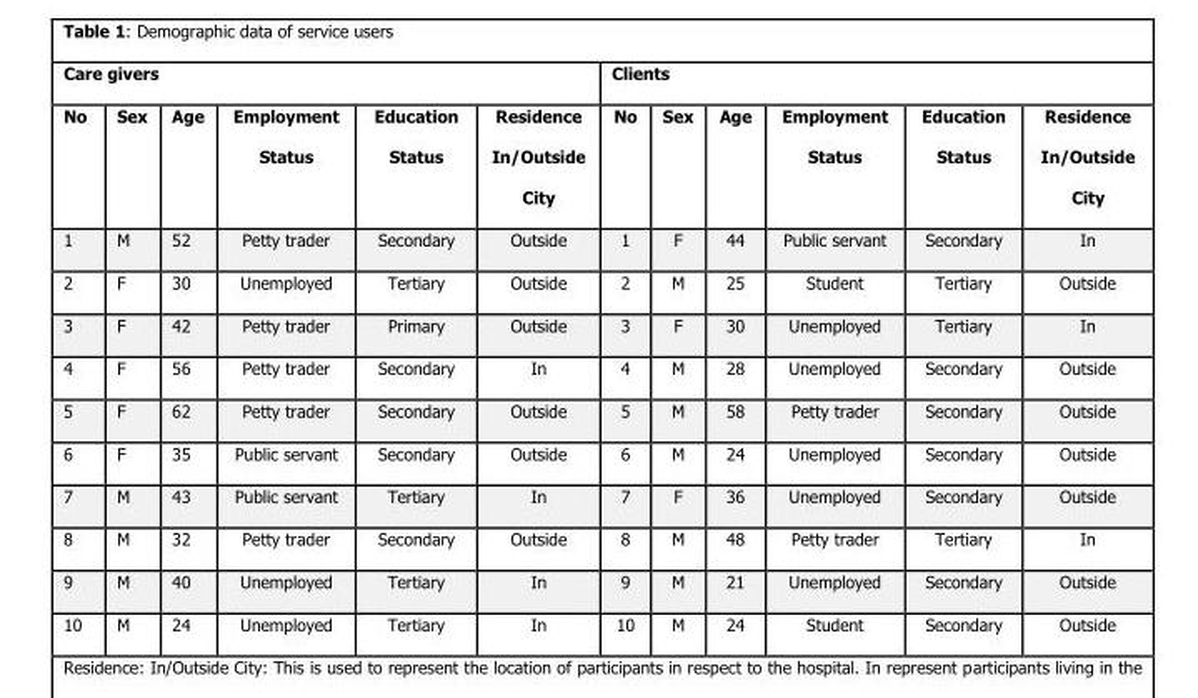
<table><thead><tr><td colspan="6">Care givers</td><td colspan="6">Clients</td></tr><tr><td>No</td><td>Sex</td><td>Age</td><td>Employment Status</td><td>Education Status</td><td>Residence In/Outside City</td><td>No</td><td>Sex</td><td>Age</td><td>Employment Status</td><td>Education Status</td><td>Residence In/Outside City</td></tr></thead><tbody><tr><td>1</td><td>M</td><td>52</td><td>Petty trader</td><td>Secondary</td><td>Outside</td><td>1</td><td>F</td><td>44</td><td>Public servant</td><td>Secondary</td><td>In</td></tr><tr><td>2</td><td>F</td><td>30</td><td>Unemployed</td><td>Tertiary</td><td>Outside</td><td>2</td><td>M</td><td>25</td><td>Student</td><td>Tertiary</td><td>Outside</td></tr><tr><td>3</td><td>F</td><td>42</td><td>Petty trader</td><td>Primary</td><td>Outside</td><td>3</td><td>F</td><td>30</td><td>Unemployed</td><td>Tertiary</td><td>In</td></tr><tr><td>4</td><td>F</td><td>56</td><td>Petty trader</td><td>Secondary</td><td>In</td><td>4</td><td>M</td><td>28</td><td>Unemployed</td><td>Secondary</td><td>Outside</td></tr><tr><td>5</td><td>F</td><td>62</td><td>Petty trader</td><td>Secondary</td><td>Outside</td><td>5</td><td>M</td><td>58</td><td>Petty trader</td><td>Secondary</td><td>Outside</td></tr><tr><td>6</td><td>F</td><td>35</td><td>Public servant</td><td>Secondary</td><td>Outside</td><td>6</td><td>M</td><td>24</td><td>Unemployed</td><td>Secondary</td><td>Outside</td></tr><tr><td>7</td><td>M</td><td>43</td><td>Public servant</td><td>Tertiary</td><td>In</td><td>7</td><td>F</td><td>36</td><td>Unemployed</td><td>Secondary</td><td>Outside</td></tr><tr><td>8</td><td>M</td><td>32</td><td>Petty trader</td><td>Secondary</td><td>Outside</td><td>8</td><td>M</td><td>48</td><td>Petty trader</td><td>Tertiary</td><td>In</td></tr><tr><td>9</td><td>M</td><td>40</td><td>Unemployed</td><td>Tertiary</td><td>In</td><td>9</td><td>M</td><td>21</td><td>Unemployed</td><td>Secondary</td><td>Outside</td></tr><tr><td>10</td><td>M</td><td>24</td><td>Unemployed</td><td>Tertiary</td><td>In</td><td>10</td><td>M</td><td>24</td><td>Student</td><td>Secondary</td><td>Outside</td></tr></tbody></table>